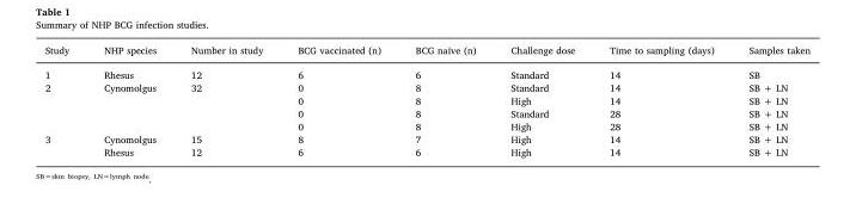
<table><thead><tr><td>Study</td><td>NHP species</td><td>Number in study</td><td>BCG vaccinated (n)</td><td>BCG naïve (n)</td><td>Challenge dose</td><td>Time to sampling (days)</td><td>Samples taken</td></tr></thead><tbody><tr><td>1</td><td>Rhesus</td><td>12</td><td>6</td><td>6</td><td>Standard</td><td>14</td><td>SB</td></tr><tr><td rowspan="4">2</td><td rowspan="4">Cynomolgus</td><td rowspan="4">32</td><td>0</td><td>8</td><td>Standard</td><td>14</td><td>SB + LN</td></tr><tr><td>0</td><td>8</td><td>High</td><td>14</td><td>SB + LN</td></tr><tr><td>0</td><td>8</td><td>Standard</td><td>28</td><td>SB + LN</td></tr><tr><td>0</td><td>8</td><td>High</td><td>28</td><td>SB + LN</td></tr><tr><td rowspan="2">3</td><td>Cynomolgus</td><td>15</td><td>8</td><td>7</td><td>High</td><td>14</td><td>SB + LN</td></tr><tr><td>Rhesus</td><td>12</td><td>6</td><td>6</td><td>High</td><td>14</td><td>SB + LN</td></tr></tbody></table>